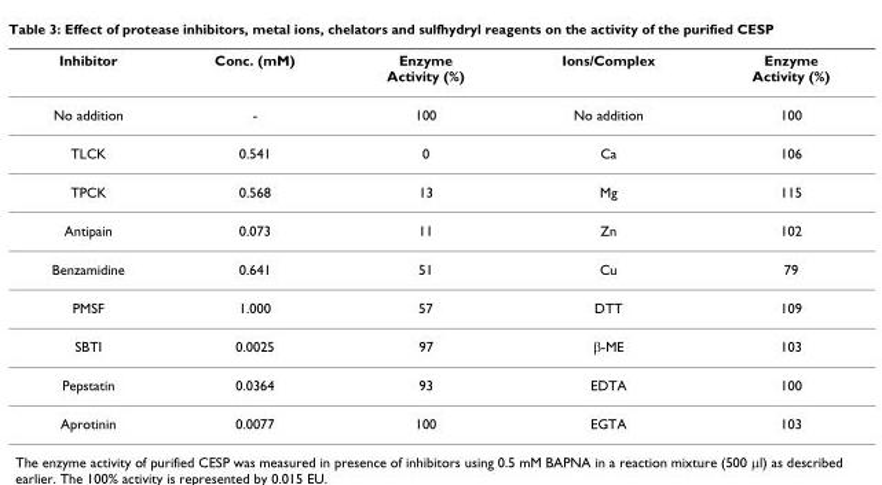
<table><thead><tr><td>Inhibitor</td><td>Conc. (mM)</td><td>Enzyme Activity (%)</td><td>Ions/Complex</td><td>Enzyme Activity (%)</td></tr></thead><tbody><tr><td>No addition</td><td>-</td><td>100</td><td>No addition</td><td>100</td></tr><tr><td>TLCK</td><td>0.541</td><td>0</td><td>Ca</td><td>106</td></tr><tr><td>TPCK</td><td>0.568</td><td>13</td><td>Mg</td><td>115</td></tr><tr><td>Antipain</td><td>0.073</td><td>11</td><td>Zn</td><td>102</td></tr><tr><td>Benzamidine</td><td>0.641</td><td>51</td><td>Cu</td><td>79</td></tr><tr><td>PMSF</td><td>1.000</td><td>57</td><td>DTT</td><td>109</td></tr><tr><td>SBTI</td><td>0.0025</td><td>97</td><td>β-ME</td><td>103</td></tr><tr><td>Pepstatin</td><td>0.0364</td><td>93</td><td>EDTA</td><td>100</td></tr><tr><td>Aprotinin</td><td>0.0077</td><td>100</td><td>EGTA</td><td>103</td></tr></tbody></table>